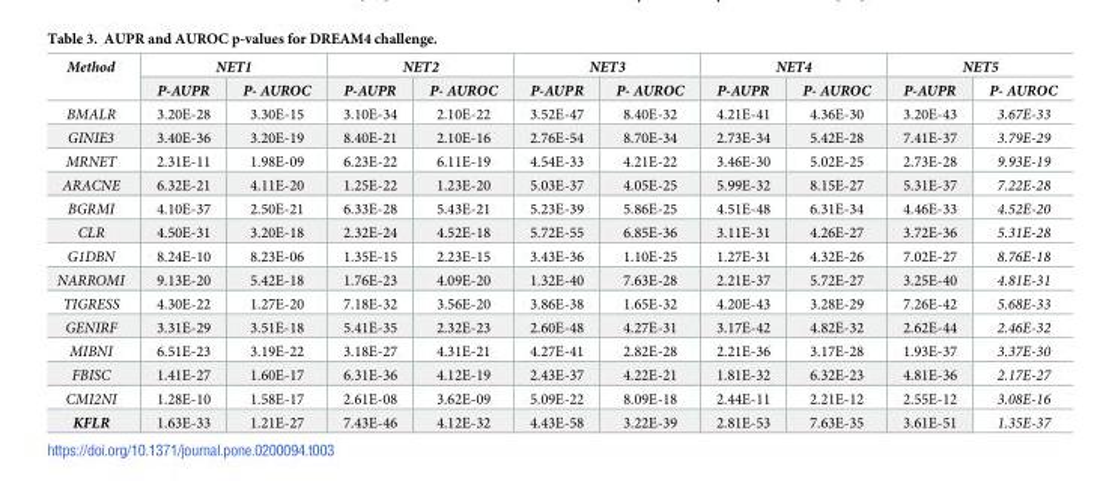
<table><thead><tr><td rowspan="2">Method</td><td colspan="2">NET1</td><td colspan="2">NET2</td><td colspan="2">NET3</td><td colspan="2">NET4</td><td colspan="2">NET5</td></tr><tr><td>P-AUPR</td><td>P- AUROC</td><td>P-AUPR</td><td>P- AUROC</td><td>P-AUPR</td><td>P- AUROC</td><td>P-AUPR</td><td>P- AUROC</td><td>P-AUPR</td><td>P- AUROC</td></tr></thead><tbody><tr><td>BMALR</td><td>3.20E-28</td><td>3.30E-15</td><td>3.10E-34</td><td>2.10E-22</td><td>3.52E-47</td><td>8.40E-32</td><td>4.21E-41</td><td>4.36E-30</td><td>3.20E-43</td><td>3.67E-33</td></tr><tr><td>GINIE3</td><td>3.40E-36</td><td>3.20E-19</td><td>8.40E-21</td><td>2.10E-16</td><td>2.76E-54</td><td>8.70E-34</td><td>2.73E-34</td><td>5.42E-28</td><td>7.41E-37</td><td>3.79E-29</td></tr><tr><td>MRNET</td><td>2.31E-11</td><td>1.98E-09</td><td>6.23E-22</td><td>6.11E-19</td><td>4.54E-33</td><td>4.21E-22</td><td>3.46E-30</td><td>5.02E-25</td><td>2.73E-28</td><td>9.93E-19</td></tr><tr><td>ARACNE</td><td>6.32E-21</td><td>4.11E-20</td><td>1.25E-22</td><td>1.23E-20</td><td>5.03E-37</td><td>4.05E-25</td><td>5.99E-32</td><td>8.15E-27</td><td>5.31E-37</td><td>7.22E-28</td></tr><tr><td>BGRMI</td><td>4.10E-37</td><td>2.50E-21</td><td>6.33E-28</td><td>5.43E-21</td><td>5.23E-39</td><td>5.86E-25</td><td>4.51E-48</td><td>6.31E-34</td><td>4.46E-33</td><td>4.52E-20</td></tr><tr><td>CLR</td><td>4.50E-31</td><td>3.20E-18</td><td>2.32E-24</td><td>4.52E-18</td><td>5.72E-55</td><td>6.85E-36</td><td>3.11E-31</td><td>4.26E-27</td><td>3.72E-36</td><td>5.31E-28</td></tr><tr><td>G1DBN</td><td>8.24E-10</td><td>8.23E-06</td><td>1.35E-15</td><td>2.23E-15</td><td>3.43E-36</td><td>1.10E-25</td><td>1.27E-31</td><td>4.32E-26</td><td>7.02E-27</td><td>8.76E-18</td></tr><tr><td>NARROMI</td><td>9.13E-20</td><td>5.42E-18</td><td>1.76E-23</td><td>4.09E-20</td><td>1.32E-40</td><td>7.63E-28</td><td>2.21E-37</td><td>5.72E-27</td><td>3.25E-40</td><td>4.81E-31</td></tr><tr><td>TIGRESS</td><td>4.30E-22</td><td>1.27E-20</td><td>7.18E-32</td><td>3.56E-20</td><td>3.86E-38</td><td>1.65E-32</td><td>4.20E-43</td><td>3.28E-29</td><td>7.26E-42</td><td>5.68E-33</td></tr><tr><td>GENIRF</td><td>3.31E-29</td><td>3.51E-18</td><td>5.41E-35</td><td>2.32E-23</td><td>2.60E-48</td><td>4.27E-31</td><td>3.17E-42</td><td>4.82E-32</td><td>2.62E-44</td><td>2.46E-32</td></tr><tr><td>MIBNI</td><td>6.51E-23</td><td>3.19E-22</td><td>3.18E-27</td><td>4.31E-21</td><td>4.27E-41</td><td>2.82E-28</td><td>2.21E-36</td><td>3.17E-28</td><td>1.93E-37</td><td>3.37E-30</td></tr><tr><td>FBISC</td><td>1.41E-27</td><td>1.60E-17</td><td>6.31E-36</td><td>4.12E-19</td><td>2.43E-37</td><td>4.22E-21</td><td>1.81E-32</td><td>6.32E-23</td><td>4.81E-36</td><td>2.17E-27</td></tr><tr><td>CMI2NI</td><td>1.28E-10</td><td>1.58E-17</td><td>2.61E-08</td><td>3.62E-09</td><td>5.09E-22</td><td>8.09E-18</td><td>2.44E-11</td><td>2.21E-12</td><td>2.55E-12</td><td>3.08E-16</td></tr><tr><td>KFLR</td><td>1.63E-33</td><td>1.21E-27</td><td>7.43E-46</td><td>4.12E-32</td><td>4.43E-58</td><td>3.22E-39</td><td>2.81E-53</td><td>7.63E-35</td><td>3.61E-51</td><td>1.35E-37</td></tr></tbody></table>